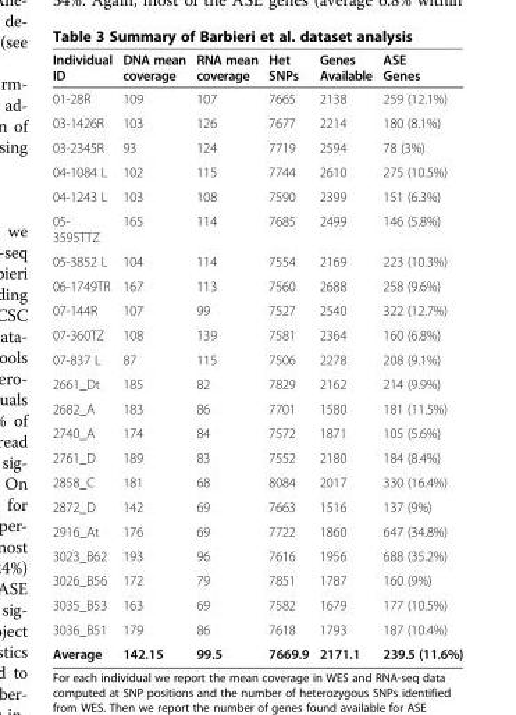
<table><thead><tr><td>Individual ID</td><td>DNA mean coverage</td><td>RNA mean coverage</td><td>Het SNPs</td><td>Genes Available</td><td>ASE Genes</td></tr></thead><tbody><tr><td>01-28R</td><td>109</td><td>107</td><td>7665</td><td>2138</td><td>259 (12.1%)</td></tr><tr><td>03-1426R</td><td>103</td><td>126</td><td>7677</td><td>2214</td><td>180 (8.1%)</td></tr><tr><td>03-2345R</td><td>93</td><td>124</td><td>7719</td><td>2594</td><td>78 (3%)</td></tr><tr><td>04-1084 L</td><td>102</td><td>115</td><td>7744</td><td>2610</td><td>275 (10.5%)</td></tr><tr><td>04-1243 L</td><td>103</td><td>108</td><td>7590</td><td>2399</td><td>151 (6.3%)</td></tr><tr><td>05- 3595TTZ</td><td>165</td><td>114</td><td>7685</td><td>2499</td><td>146 (5.8%)</td></tr><tr><td>05-3852 L</td><td>104</td><td>114</td><td>7554</td><td>2169</td><td>223 (10.3%)</td></tr><tr><td>06-1749TR</td><td>167</td><td>113</td><td>7560</td><td>2688</td><td>258 (9.6%)</td></tr><tr><td>07-144R</td><td>107</td><td>99</td><td>7527</td><td>2540</td><td>322 (12.7%)</td></tr><tr><td>07-360TZ</td><td>108</td><td>139</td><td>7581</td><td>2364</td><td>160 (6.8%)</td></tr><tr><td>07-837 L</td><td>87</td><td>115</td><td>7506</td><td>2278</td><td>208 (9.1%)</td></tr><tr><td>2661_Dt</td><td>185</td><td>82</td><td>7829</td><td>2162</td><td>214 (9.9%)</td></tr><tr><td>2682_A</td><td>183</td><td>86</td><td>7701</td><td>1580</td><td>181 (11.5%)</td></tr><tr><td>2740_A</td><td>174</td><td>84</td><td>7572</td><td>1871</td><td>105 (5.6%)</td></tr><tr><td>2761_D</td><td>189</td><td>83</td><td>7552</td><td>2180</td><td>184 (8.4%)</td></tr><tr><td>2858_C</td><td>181</td><td>68</td><td>8084</td><td>2017</td><td>330 (16.4%)</td></tr><tr><td>2872_D</td><td>142</td><td>69</td><td>7663</td><td>1516</td><td>137 (9%)</td></tr><tr><td>2916_At</td><td>176</td><td>69</td><td>7722</td><td>1860</td><td>647 (34.8%)</td></tr><tr><td>3023_B62</td><td>193</td><td>96</td><td>7616</td><td>1956</td><td>688 (35.2%)</td></tr><tr><td>3026_B56</td><td>172</td><td>79</td><td>7851</td><td>1787</td><td>160 (9%)</td></tr><tr><td>3035_B53</td><td>163</td><td>69</td><td>7582</td><td>1679</td><td>177 (10.5%)</td></tr><tr><td>3036_B51</td><td>179</td><td>86</td><td>7618</td><td>1793</td><td>187 (10.4%)</td></tr><tr><td>Average</td><td>142.15</td><td>99.5</td><td>7669.9</td><td>2171.1</td><td>239.5 (11.6%)</td></tr></tbody></table>